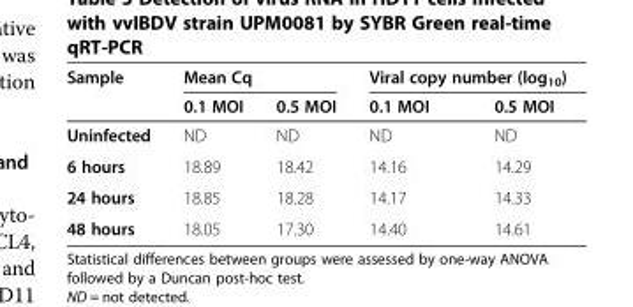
<table><thead><tr><td rowspan="2">Sample</td><td colspan="2">Mean Cq</td><td colspan="2">Viral copy number (log<sub>10</sub>)</td></tr><tr><td>0.1 MOI</td><td>0.5 MOI</td><td>0.1 MOI</td><td>0.5 MOI</td></tr></thead><tbody><tr><td>Uninfected</td><td>ND</td><td>ND</td><td>ND</td><td>ND</td></tr><tr><td>6 hours</td><td>18.89</td><td>18.42</td><td>14.16</td><td>14.29</td></tr><tr><td>24 hours</td><td>18.85</td><td>18.28</td><td>14.17</td><td>14.33</td></tr><tr><td>48 hours</td><td>18.05</td><td>17.30</td><td>14.40</td><td>14.61</td></tr></tbody></table>